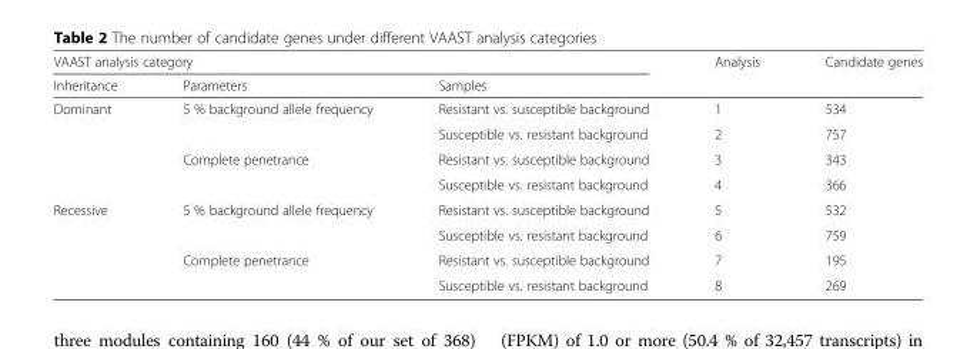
<table><thead><tr><td colspan="3">VAAST analysis category</td><td rowspan="2">Analysis</td><td rowspan="2">Candidate genes</td></tr><tr><td>Inheritance</td><td>Parameters</td><td>Samples</td></tr></thead><tbody><tr><td rowspan="4">Dominant</td><td>5 % background allele frequency</td><td>Resistant vs. susceptible background</td><td>1</td><td>534</td></tr><tr><td></td><td>Susceptible vs. resistant background</td><td>2</td><td>757</td></tr><tr><td>Complete penetrance</td><td>Resistant vs. susceptible background</td><td>3</td><td>343</td></tr><tr><td></td><td>Susceptible vs. resistant background</td><td>4</td><td>366</td></tr><tr><td rowspan="4">Recessive</td><td rowspan="2">5 % background allele frequency</td><td>Resistant vs. susceptible background</td><td>5</td><td>532</td></tr><tr><td>Susceptible vs. resistant background</td><td>6</td><td>759</td></tr><tr><td rowspan="2">Complete penetrance</td><td>Resistant vs. susceptible background</td><td>7</td><td>195</td></tr><tr><td>Susceptible vs. resistant background</td><td>8</td><td>269</td></tr></tbody></table>